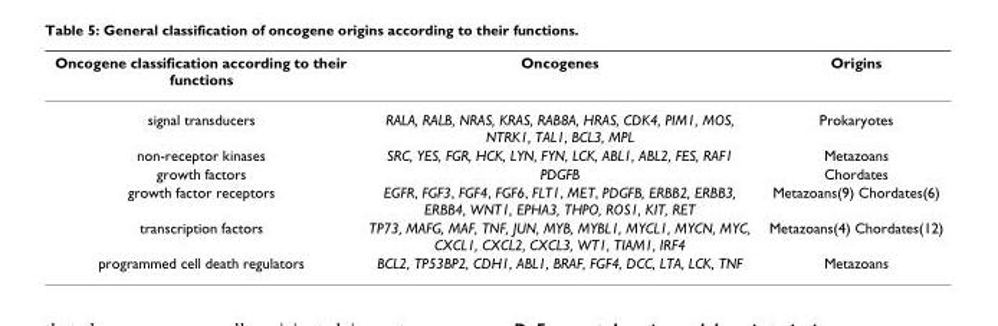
<table><thead><tr><td>Oncogene classification according to their functions</td><td>Oncogenes</td><td>Origins</td></tr></thead><tbody><tr><td>signal transducers</td><td>RALA, RALB, NRAS, KRAS, RAB8A, HRAS, CDK4, PIM1, MOS, NTRK1, TAL1, BCL3, MPL</td><td>Prokaryotes</td></tr><tr><td>non-receptor kinases</td><td>SRC, YES, FGR, HCK, LYN, FYN, LCK, ABL1, ABL2, FES, RAF1</td><td>Metazoans</td></tr><tr><td>growth factors</td><td>PDGFB</td><td>Chordates</td></tr><tr><td>growth factor receptors</td><td>EGFR, FGF3, FGF4, FGF6, FLT1, MET, PDGFB, ERBB2, ERBB3, ERBB4, WNT1, EPHA3, THPO, ROS1, KIT, RET</td><td>Metazoans(9) Chordates(6)</td></tr><tr><td>transcription factors</td><td>TP73, MAFG, MAF, TNF, JUN, MYB, MYBL1, MYCL1, MYCN, MYC, CXCL1, CXCL2, CXCL3, WT1, TIAM1, IRF4</td><td>Metazoans(4) Chordates(12)</td></tr><tr><td>programmed cell death regulators</td><td>BCL2, TP53BP2, CDH1, ABL1, BRAF, FGF4, DCC, LTA, LCK, TNF</td><td>Metazoans</td></tr></tbody></table>